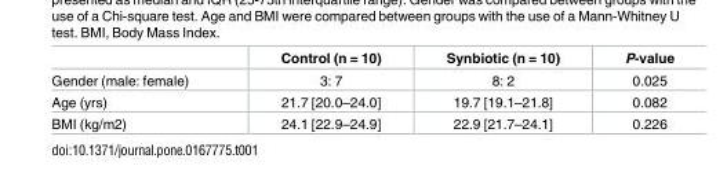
<table><thead><tr><td></td><td>Control (n = 10)</td><td>Synbiotic (n = 10)</td><td>P-value</td></tr></thead><tbody><tr><td>Gender (male: female)</td><td>3: 7</td><td>8: 2</td><td>0.025</td></tr><tr><td>Age (yrs)</td><td>21.7 [20.0–24.0]</td><td>19.7 [19.1–21.8]</td><td>0.082</td></tr><tr><td>BMI (kg/m2)</td><td>24.1 [22.9–24.9]</td><td>22.9 [21.7–24.1]</td><td>0.226</td></tr></tbody></table>